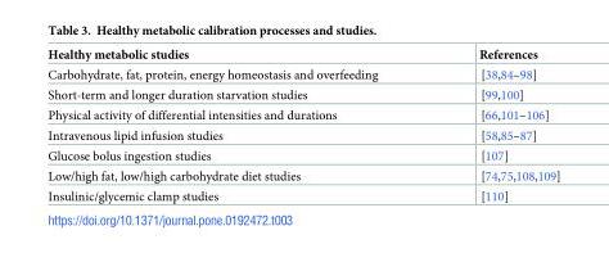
<table><thead><tr><td>Healthy metabolic studies</td><td>References</td></tr></thead><tbody><tr><td>Carbohydrate, fat, protein, energy homeostasis and overfeeding</td><td>[38,84–98]</td></tr><tr><td>Short-term and longer duration starvation studies</td><td>[99,100]</td></tr><tr><td>Physical activity of differential intensities and durations</td><td>[66,101–106]</td></tr><tr><td>Intravenous lipid infusion studies</td><td>[58,85–87]</td></tr><tr><td>Glucose bolus ingestion studies</td><td>[107]</td></tr><tr><td>Low/high fat, low/high carbohydrate diet studies</td><td>[74,75,108,109]</td></tr><tr><td>Insulinic/glycemic clamp studies</td><td>[110]</td></tr></tbody></table>